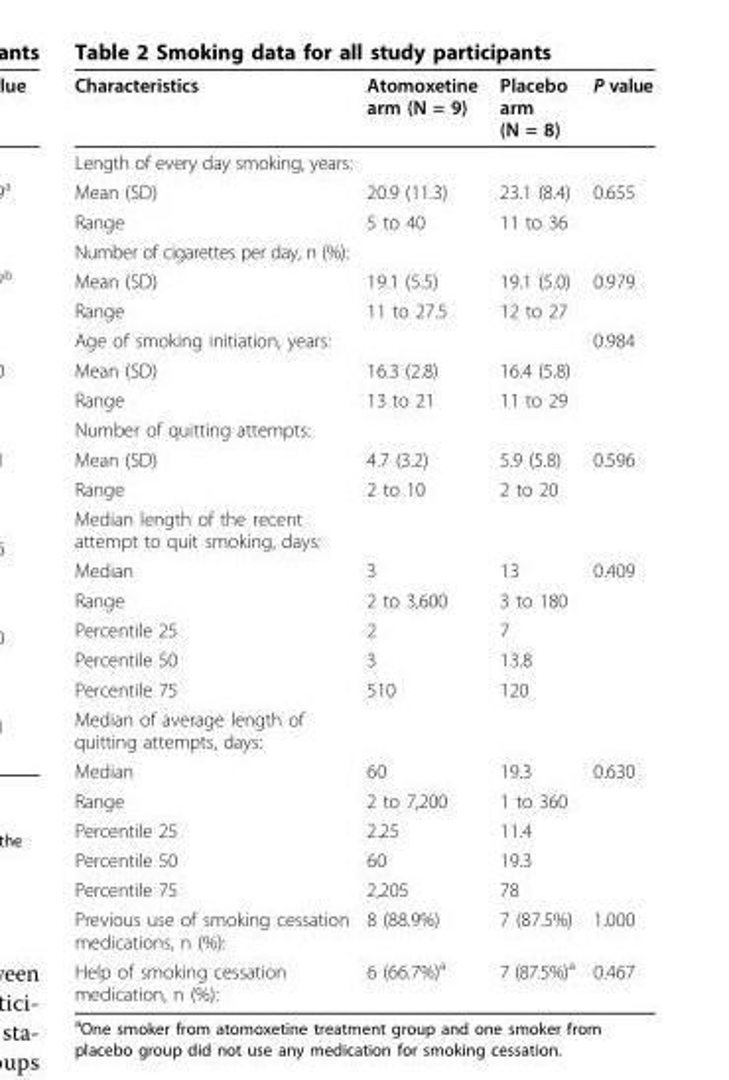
<table><thead><tr><td>Characteristics</td><td>Atomoxetine arm (N = 9)</td><td>Placebo arm (N = 8)</td><td>P value</td></tr></thead><tbody><tr><td colspan="4">Length of every day smoking, years:</td></tr><tr><td>Mean (SD)</td><td>20.9 (11.3)</td><td>23.1 (8.4)</td><td>0.655</td></tr><tr><td>Range</td><td>5 to 40</td><td>11 to 36</td><td></td></tr><tr><td colspan="4">Number of cigarettes per day, n (%):</td></tr><tr><td>Mean (SD)</td><td>19.1 (5.5)</td><td>19.1 (5.0)</td><td>0.979</td></tr><tr><td>Range</td><td>11 to 27.5</td><td>12 to 27</td><td></td></tr><tr><td>Age of smoking initiation, years:</td><td></td><td></td><td>0.984</td></tr><tr><td>Mean (SD)</td><td>16.3 (2.8)</td><td>16.4 (5.8)</td><td></td></tr><tr><td>Range</td><td>13 to 21</td><td>11 to 29</td><td></td></tr><tr><td colspan="4">Number of quitting attempts:</td></tr><tr><td>Mean (SD)</td><td>4.7 (3.2)</td><td>5.9 (5.8)</td><td>0.596</td></tr><tr><td>Range</td><td>2 to 10</td><td>2 to 20</td><td></td></tr><tr><td colspan="4">Median length of the recent attempt to quit smoking, days:</td></tr><tr><td>Median</td><td>3</td><td>13</td><td>0.409</td></tr><tr><td>Range</td><td>2 to 3,600</td><td>3 to 180</td><td></td></tr><tr><td>Percentile 25</td><td>2</td><td>7</td><td></td></tr><tr><td>Percentile 50</td><td>3</td><td>13.8</td><td></td></tr><tr><td>Percentile 75</td><td>510</td><td>120</td><td></td></tr><tr><td colspan="4">Median of average length of quitting attempts, days:</td></tr><tr><td>Median</td><td>60</td><td>19.3</td><td>0.630</td></tr><tr><td>Range</td><td>2 to 7,200</td><td>1 to 360</td><td></td></tr><tr><td>Percentile 25</td><td>2.25</td><td>11.4</td><td></td></tr><tr><td>Percentile 50</td><td>60</td><td>19.3</td><td></td></tr><tr><td>Percentile 75</td><td>2,205</td><td>78</td><td></td></tr><tr><td>Previous use of smoking cessation medications, n (%):</td><td>8 (88.9%)</td><td>7 (87.5%)</td><td>1.000</td></tr><tr><td>Help of smoking cessation medication, n (%):</td><td>6 (66.7%)<sup>a</sup></td><td>7 (87.5%)<sup>a</sup></td><td>0.467</td></tr></tbody></table>